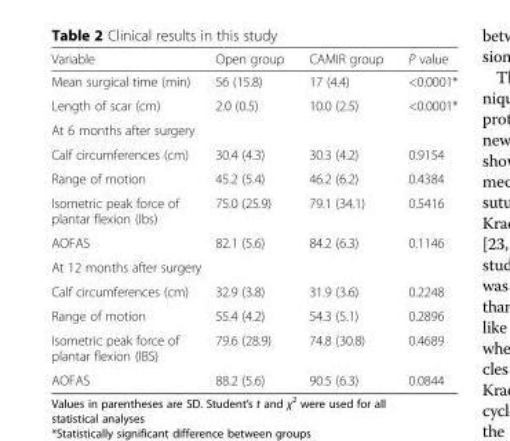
<table><thead><tr><td>Variable</td><td>Open group</td><td>CAMIR group</td><td>P value</td></tr></thead><tbody><tr><td>Mean surgical time (min)</td><td>56 (15.8)</td><td>17 (4.4)</td><td>&lt;0.0001*</td></tr><tr><td>Length of scar (cm)</td><td>2.0 (0.5)</td><td>10.0 (2.5)</td><td>&lt;0.0001*</td></tr><tr><td colspan="4">At 6 months after surgery</td></tr><tr><td>Calf circumferences (cm)</td><td>30.4 (4.3)</td><td>30.3 (4.2)</td><td>0.9154</td></tr><tr><td>Range of motion</td><td>45.2 (5.4)</td><td>46.2 (6.2)</td><td>0.4384</td></tr><tr><td>Isometric peak force of plantar flexion (Ibs)</td><td>75.0 (25.9)</td><td>79.1 (34.1)</td><td>0.5416</td></tr><tr><td>AOFAS</td><td>82.1 (5.6)</td><td>84.2 (6.3)</td><td>0.1146</td></tr><tr><td colspan="4">At 12 months after surgery</td></tr><tr><td>Calf circumferences (cm)</td><td>32.9 (3.8)</td><td>31.9 (3.6)</td><td>0.2248</td></tr><tr><td>Range of motion</td><td>55.4 (4.2)</td><td>54.3 (5.1)</td><td>0.2896</td></tr><tr><td>Isometric peak force of plantar flexion (IBS)</td><td>79.6 (28.9)</td><td>74.8 (30.8)</td><td>0.4689</td></tr><tr><td>AOFAS</td><td>88.2 (5.6)</td><td>90.5 (6.3)</td><td>0.0844</td></tr></tbody></table>